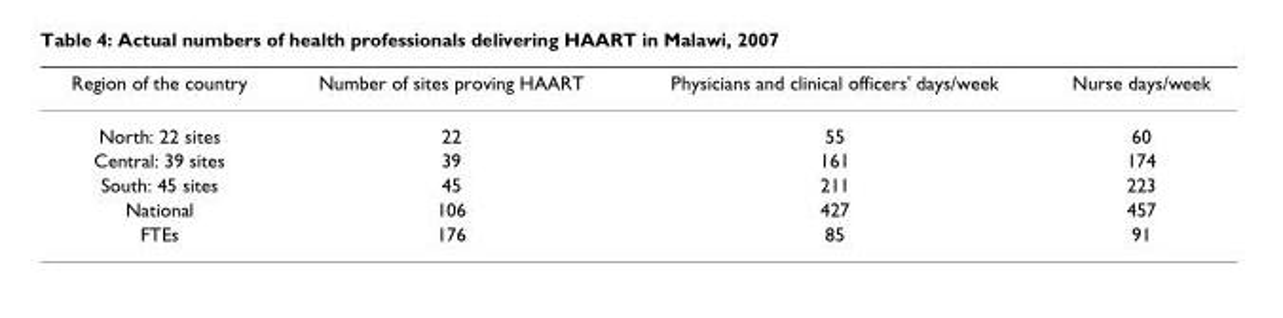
<table><thead><tr><td>Region of the country</td><td>Number of sites proving HAART</td><td>Physicians and clinical officers&#x27; days/week</td><td>Nurse days/week</td></tr></thead><tbody><tr><td>North: 22 sites</td><td>22</td><td>55</td><td>60</td></tr><tr><td>Central: 39 sites</td><td>39</td><td>161</td><td>174</td></tr><tr><td>South: 45 sites</td><td>45</td><td>211</td><td>223</td></tr><tr><td>National</td><td>106</td><td>427</td><td>457</td></tr><tr><td>FTEs</td><td>176</td><td>85</td><td>91</td></tr></tbody></table>